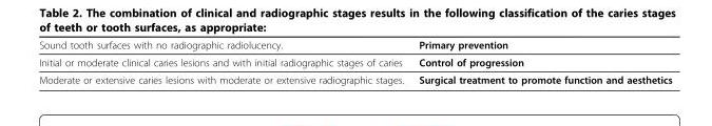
<table><thead><tr><td>Sound tooth surfaces with no radiographic radiolucency.</td><td>Primary prevention</td></tr></thead><tbody><tr><td>Initial or moderate clinical caries lesions and with initial radiographic stages of caries</td><td>Control of progression</td></tr><tr><td>Moderate or extensive caries lesions with moderate or extensive radiographic stages.</td><td>Surgical treatment to promote function and aesthetics</td></tr></tbody></table>